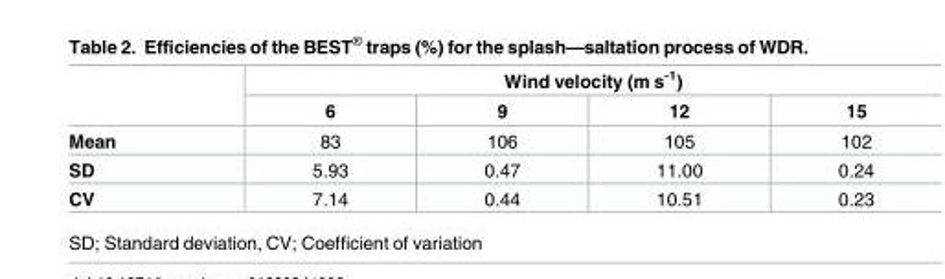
<table><thead><tr><td rowspan="2"></td><td colspan="4">Wind velocity (m s<sup>-1</sup>)</td></tr><tr><td>6</td><td>9</td><td>12</td><td>15</td></tr></thead><tbody><tr><td>Mean</td><td>83</td><td>106</td><td>105</td><td>102</td></tr><tr><td>SD</td><td>5.93</td><td>0.47</td><td>11.00</td><td>0.24</td></tr><tr><td>CV</td><td>7.14</td><td>0.44</td><td>10.51</td><td>0.23</td></tr></tbody></table>